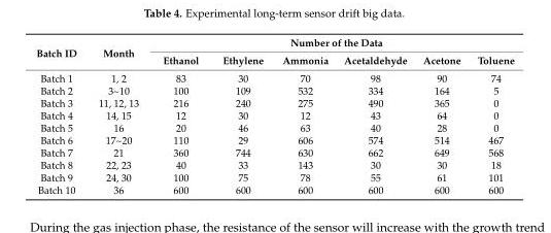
<table><thead><tr><td rowspan="2">Batch ID</td><td rowspan="2">Month</td><td colspan="6">Number of the Data</td></tr><tr><td>Ethanol</td><td>Ethylene</td><td>Ammonia</td><td>Acetaldehyde</td><td>Acetone</td><td>Toluene</td></tr></thead><tbody><tr><td>Batch 1</td><td>1, 2</td><td>83</td><td>30</td><td>70</td><td>98</td><td>90</td><td>74</td></tr><tr><td>Batch 2</td><td>3~10</td><td>100</td><td>109</td><td>532</td><td>334</td><td>164</td><td>5</td></tr><tr><td>Batch 3</td><td>11, 12, 13</td><td>216</td><td>240</td><td>275</td><td>490</td><td>365</td><td>0</td></tr><tr><td>Batch 4</td><td>14, 15</td><td>12</td><td>30</td><td>12</td><td>43</td><td>64</td><td>0</td></tr><tr><td>Batch 5</td><td>16</td><td>20</td><td>46</td><td>63</td><td>40</td><td>28</td><td>0</td></tr><tr><td>Batch 6</td><td>17~20</td><td>110</td><td>29</td><td>606</td><td>574</td><td>514</td><td>467</td></tr><tr><td>Batch 7</td><td>21</td><td>360</td><td>744</td><td>630</td><td>662</td><td>649</td><td>568</td></tr><tr><td>Batch 8</td><td>22, 23</td><td>40</td><td>33</td><td>143</td><td>30</td><td>30</td><td>18</td></tr><tr><td>Batch 9</td><td>24, 30</td><td>100</td><td>75</td><td>78</td><td>55</td><td>61</td><td>101</td></tr><tr><td>Batch 10</td><td>36</td><td>600</td><td>600</td><td>600</td><td>600</td><td>600</td><td>600</td></tr></tbody></table>